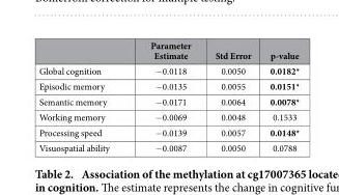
<table><thead><tr><td></td><td>Parameter Estimate</td><td>Std Error</td><td>p-value</td></tr></thead><tbody><tr><td>Global cognition</td><td>− 0.0118</td><td>0.0050</td><td>0.0182*</td></tr><tr><td>Episodic memory</td><td>− 0.0135</td><td>0.0055</td><td>0.0151*</td></tr><tr><td>Semantic memory</td><td>− 0.0171</td><td>0.0064</td><td>0.0078*</td></tr><tr><td>Working memory</td><td>− 0.0069</td><td>0.0048</td><td>0.1533</td></tr><tr><td>Processing speed</td><td>− 0.0139</td><td>0.0057</td><td>0.0148*</td></tr><tr><td>Visuospatial ability</td><td>− 0.0087</td><td>0.0050</td><td>0.0788</td></tr></tbody></table>